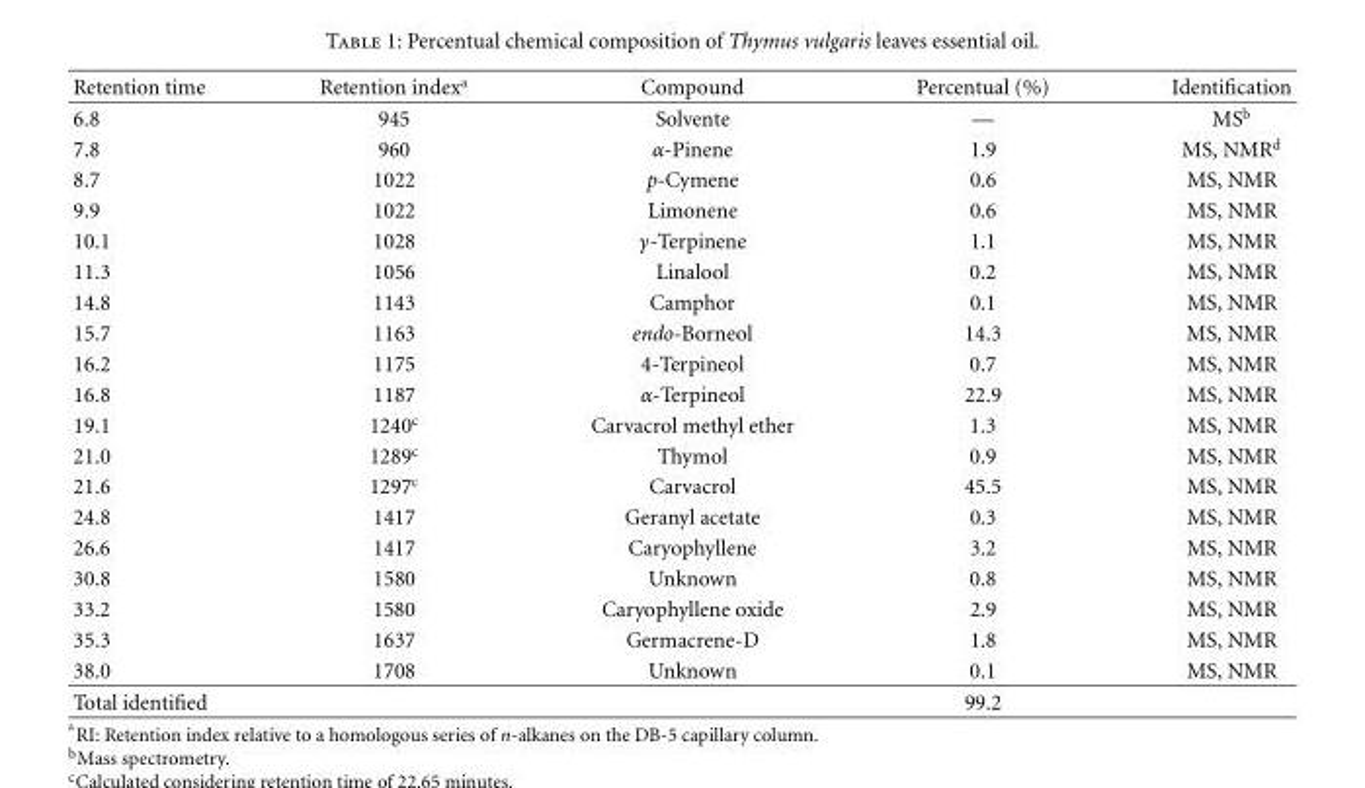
<table><thead><tr><td>Retention time</td><td>Retention index<sup>a</sup></td><td>Compound</td><td>Percentual (%)</td><td>Identification</td></tr></thead><tbody><tr><td>6.8</td><td>945</td><td>Solvente</td><td>—</td><td>MS<sup>b</sup></td></tr><tr><td>7.8</td><td>960</td><td>α-Pinene</td><td>1.9</td><td>MS, NMR<sup>d</sup></td></tr><tr><td>8.7</td><td>1022</td><td>p-Cymene</td><td>0.6</td><td>MS, NMR</td></tr><tr><td>9.9</td><td>1022</td><td>Limonene</td><td>0.6</td><td>MS, NMR</td></tr><tr><td>10.1</td><td>1028</td><td>γ-Terpinene</td><td>1.1</td><td>MS, NMR</td></tr><tr><td>11.3</td><td>1056</td><td>Linalool</td><td>0.2</td><td>MS, NMR</td></tr><tr><td>14.8</td><td>1143</td><td>Camphor</td><td>0.1</td><td>MS, NMR</td></tr><tr><td>15.7</td><td>1163</td><td>endo-Borneol</td><td>14.3</td><td>MS, NMR</td></tr><tr><td>16.2</td><td>1175</td><td>4-Terpineol</td><td>0.7</td><td>MS, NMR</td></tr><tr><td>16.8</td><td>1187</td><td>α-Terpineol</td><td>22.9</td><td>MS, NMR</td></tr><tr><td>19.1</td><td>1240<sup>c</sup></td><td>Carvacrol methyl ether</td><td>1.3</td><td>MS, NMR</td></tr><tr><td>21.0</td><td>1289<sup>c</sup></td><td>Thymol</td><td>0.9</td><td>MS, NMR</td></tr><tr><td>21.6</td><td>1297<sup>c</sup></td><td>Carvacrol</td><td>45.5</td><td>MS, NMR</td></tr><tr><td>24.8</td><td>1417</td><td>Geranyl acetate</td><td>0.3</td><td>MS, NMR</td></tr><tr><td>26.6</td><td>1417</td><td>Caryophyllene</td><td>3.2</td><td>MS, NMR</td></tr><tr><td>30.8</td><td>1580</td><td>Unknown</td><td>0.8</td><td>MS, NMR</td></tr><tr><td>33.2</td><td>1580</td><td>Caryophyllene oxide</td><td>2.9</td><td>MS, NMR</td></tr><tr><td>35.3</td><td>1637</td><td>Germacrene-D</td><td>1.8</td><td>MS, NMR</td></tr><tr><td>38.0</td><td>1708</td><td>Unknown</td><td>0.1</td><td>MS, NMR</td></tr><tr><td>Total identified</td><td></td><td></td><td>99.2</td><td></td></tr></tbody></table>